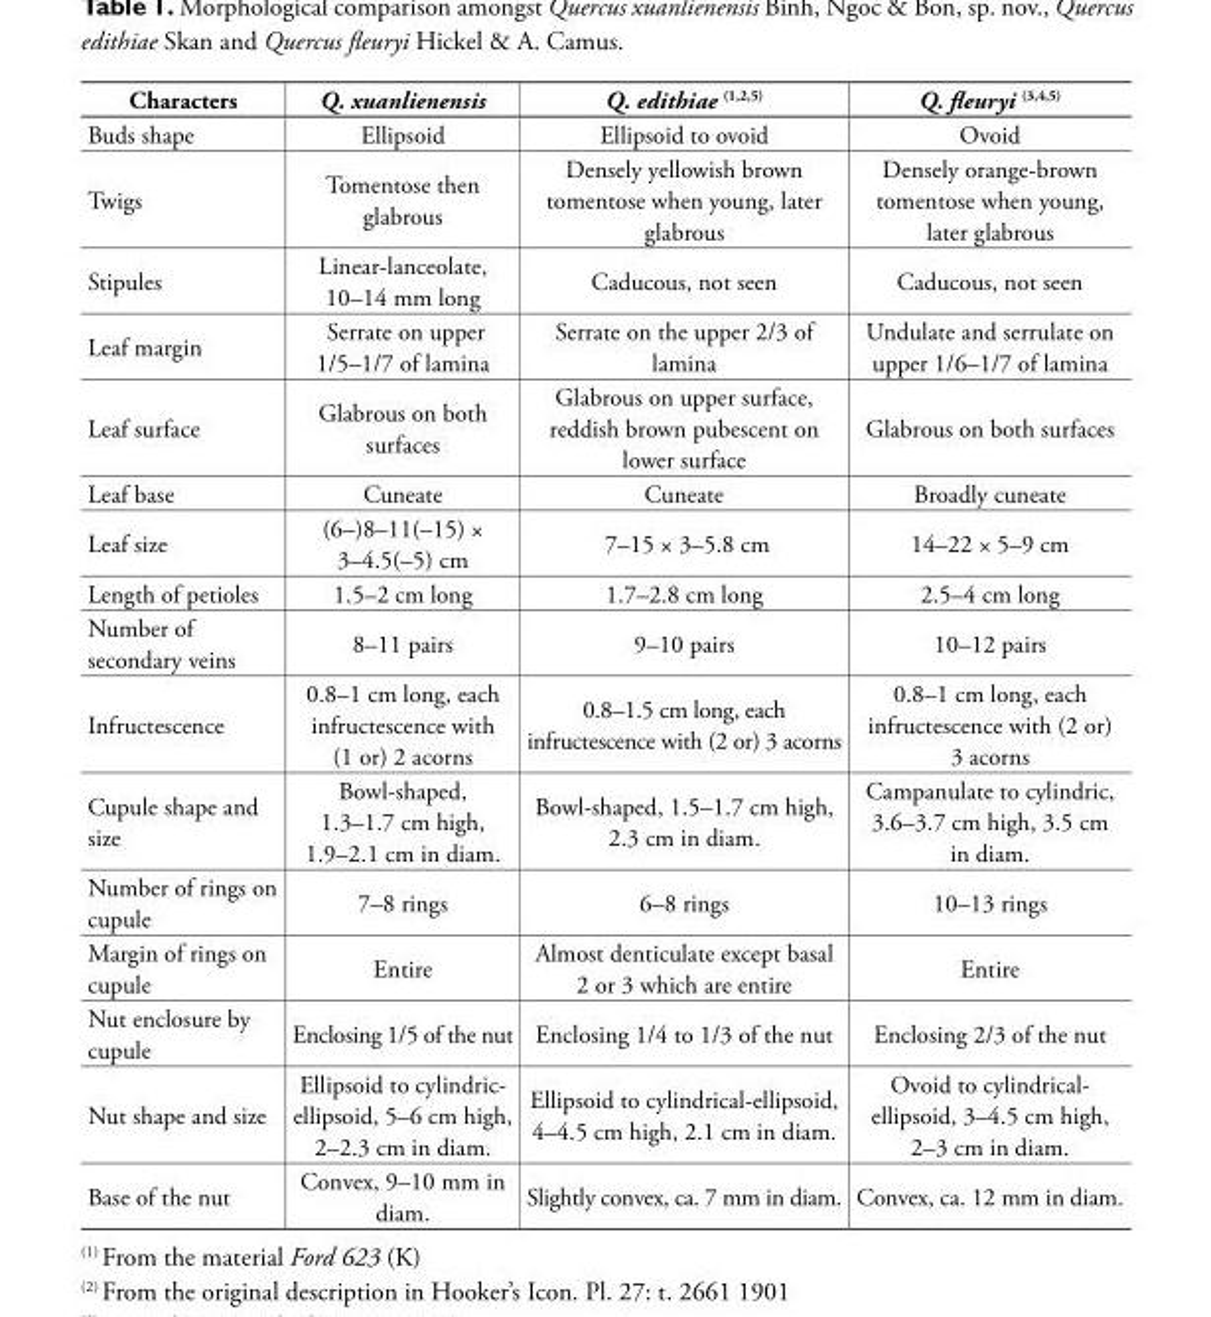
<table><thead><tr><td>Characters</td><td>Q. xuanlienensis</td><td>Q. edithiae <sup>(1,2,5)</sup></td><td>Q. fleuryi <sup>(3,4,5)</sup></td></tr></thead><tbody><tr><td>Buds shape</td><td>Ellipsoid</td><td>Ellipsoid to ovoid</td><td>Ovoid</td></tr><tr><td>Twigs</td><td>Tomentose then glabrous</td><td>Densely yellowish brown tomentose when young, later glabrous</td><td>Densely orange-brown tomentose when young, later glabrous</td></tr><tr><td>Stipules</td><td>Linear-lanceolate, 10–14 mm long</td><td>Caducous, not seen</td><td>Caducous, not seen</td></tr><tr><td>Leaf margin</td><td>Serrate on upper 1/5–1/7 of lamina</td><td>Serrate on the upper 2/3 of lamina</td><td>Undulate and serrulate on upper 1/6–1/7 of lamina</td></tr><tr><td>Leaf surface</td><td>Glabrous on both surfaces</td><td>Glabrous on upper surface, reddish brown pubescent on lower surface</td><td>Glabrous on both surfaces</td></tr><tr><td>Leaf base</td><td>Cuneate</td><td>Cuneate</td><td>Broadly cuneate</td></tr><tr><td>Leaf size</td><td>(6–)8–11(–15) × 3–4.5(–5) cm</td><td>7–15 × 3–5.8 cm</td><td>14–22 × 5–9 cm</td></tr><tr><td>Length of petioles</td><td>1.5–2 cm long</td><td>1.7–2.8 cm long</td><td>2.5–4 cm long</td></tr><tr><td>Number of secondary veins</td><td>8–11 pairs</td><td>9–10 pairs</td><td>10–12 pairs</td></tr><tr><td>Infructescence</td><td>0.8–1 cm long, each infructescence with (1 or) 2 acorns</td><td>0.8–1.5 cm long, each infructescence with (2 or) 3 acorns</td><td>0.8–1 cm long, each infructescence with (2 or) 3 acorns</td></tr><tr><td>Cupule shape and size</td><td>Bowl-shaped, 1.3–1.7 cm high, 1.9–2.1 cm in diam.</td><td>Bowl-shaped, 1.5–1.7 cm high, 2.3 cm in diam.</td><td>Campanulate to cylindric, 3.6–3.7 cm high, 3.5 cm in diam.</td></tr><tr><td>Number of rings on cupule</td><td>7–8 rings</td><td>6–8 rings</td><td>10–13 rings</td></tr><tr><td>Margin of rings on cupule</td><td>Entire</td><td>Almost denticulate except basal 2 or 3 which are entire</td><td>Entire</td></tr><tr><td>Nut enclosure by cupule</td><td>Enclosing 1/5 of the nut</td><td>Enclosing 1/4 to 1/3 of the nut</td><td>Enclosing 2/3 of the nut</td></tr><tr><td>Nut shape and size</td><td>Ellipsoid to cylindric- ellipsoid, 5–6 cm high, 2–2.3 cm in diam.</td><td>Ellipsoid to cylindrical-ellipsoid, 4–4.5 cm high, 2.1 cm in diam.</td><td>Ovoid to cylindrical- ellipsoid, 3–4.5 cm high, 2–3 cm in diam.</td></tr><tr><td>Base of the nut</td><td>Convex, 9–10 mm in diam.</td><td>Slightly convex, ca. 7 mm in diam.</td><td>Convex, ca. 12 mm in diam.</td></tr></tbody></table>